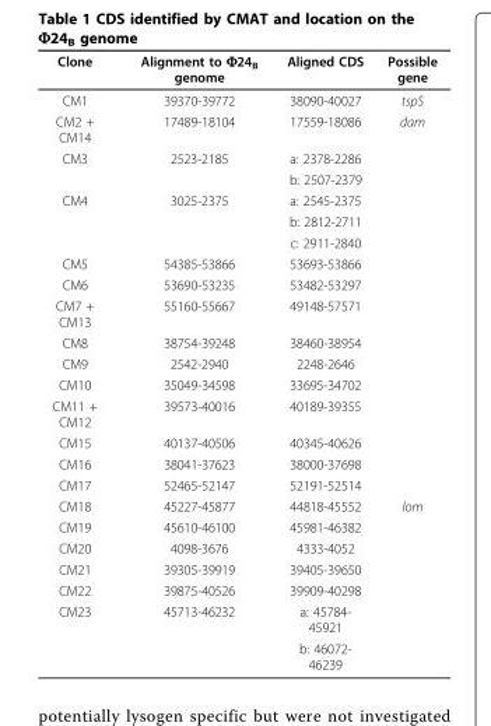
<table><thead><tr><td>Clone</td><td>Alignment to Φ24<sub>B</sub> genome</td><td>Aligned CDS</td><td>Possible gene</td></tr></thead><tbody><tr><td>CM1</td><td>39370-39772</td><td>38090-40027</td><td>tspS</td></tr><tr><td>CM2 + CM14</td><td>17489-18104</td><td>17559-18086</td><td>dam</td></tr><tr><td rowspan="2">CM3</td><td>2523-2185</td><td>a: 2378-2286</td><td></td></tr><tr><td></td><td>b: 2507-2379</td><td></td></tr><tr><td rowspan="3">CM4</td><td>3025-2375</td><td>a: 2545-2375</td><td></td></tr><tr><td></td><td>b: 2812-2711</td><td></td></tr><tr><td></td><td>c: 2911-2840</td><td></td></tr><tr><td>CM5</td><td>54385-53866</td><td>53693-53866</td><td></td></tr><tr><td>CM6</td><td>53690-53235</td><td>53482-53297</td><td></td></tr><tr><td>CM7 + CM13</td><td>55160-55667</td><td>49148-57571</td><td></td></tr><tr><td>CM8</td><td>38754-39248</td><td>38460-38954</td><td></td></tr><tr><td>CM9</td><td>2542-2940</td><td>2248-2646</td><td></td></tr><tr><td>CM10</td><td>35049-34598</td><td>33695-34702</td><td></td></tr><tr><td>CM11 + CM12</td><td>39573-40016</td><td>40189-39355</td><td></td></tr><tr><td>CM15</td><td>40137-40506</td><td>40345-40626</td><td></td></tr><tr><td>CM16</td><td>38041-37623</td><td>38000-37698</td><td></td></tr><tr><td>CM17</td><td>52465-52147</td><td>52191-52514</td><td></td></tr><tr><td>CM18</td><td>45227-45877</td><td>44818-45552</td><td>lom</td></tr><tr><td>CM19</td><td>45610-46100</td><td>45981-46382</td><td></td></tr><tr><td>CM20</td><td>4098-3676</td><td>4333-4052</td><td></td></tr><tr><td>CM21</td><td>39305-39919</td><td>39405-39650</td><td></td></tr><tr><td>CM22</td><td>39875-40526</td><td>39909-40298</td><td></td></tr><tr><td rowspan="2">CM23</td><td>45713-46232</td><td>a: 45784- 45921</td><td></td></tr><tr><td></td><td>b: 46072- 46239</td><td></td></tr></tbody></table>